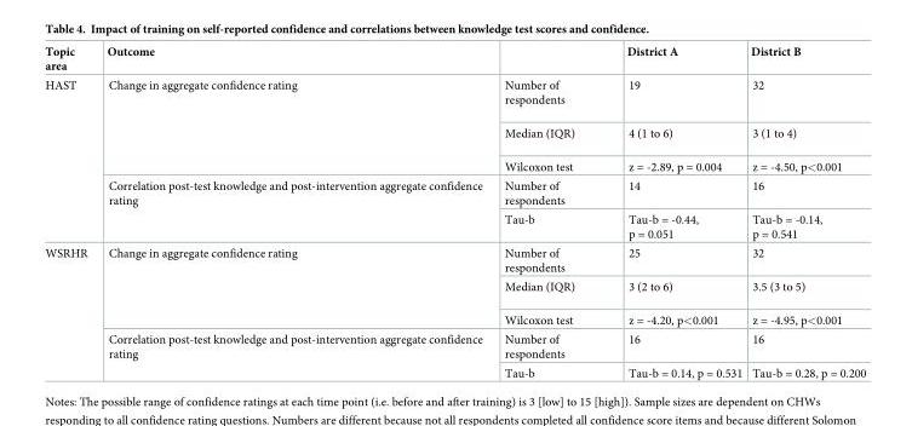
<table><thead><tr><td>Topic area</td><td>Outcome</td><td></td><td>District A</td><td>District B</td></tr></thead><tbody><tr><td rowspan="5">HAST</td><td rowspan="3">Change in aggregate confidence rating</td><td>Number of respondents</td><td>19</td><td>32</td></tr><tr><td>Median (IQR)</td><td>4 (1 to 6)</td><td>3 (1 to 4)</td></tr><tr><td>Wilcoxon test</td><td>z = -2.89, p = 0.004</td><td>z = -4.50, p&lt;0.001</td></tr><tr><td rowspan="2">Correlation post-test knowledge and post-intervention aggregate confidence rating</td><td>Number of respondents</td><td>14</td><td>16</td></tr><tr><td>Tau-b</td><td>Tau-b = -0.44, p = 0.051</td><td>Tau-b = -0.14, p = 0.541</td></tr><tr><td rowspan="5">WSRHR</td><td rowspan="3">Change in aggregate confidence rating</td><td>Number of respondents</td><td>25</td><td>32</td></tr><tr><td>Median (IQR)</td><td>3 (2 to 6)</td><td>3.5 (3 to 5)</td></tr><tr><td>Wilcoxon test</td><td>z = -4.20, p&lt;0.001</td><td>z = -4.95, p&lt;0.001</td></tr><tr><td rowspan="2">Correlation post-test knowledge and post-intervention aggregate confidence rating</td><td>Number of respondents</td><td>16</td><td>16</td></tr><tr><td>Tau-b</td><td>Tau-b = 0.14, p = 0.531</td><td>Tau-b = 0.28, p = 0.200</td></tr></tbody></table>